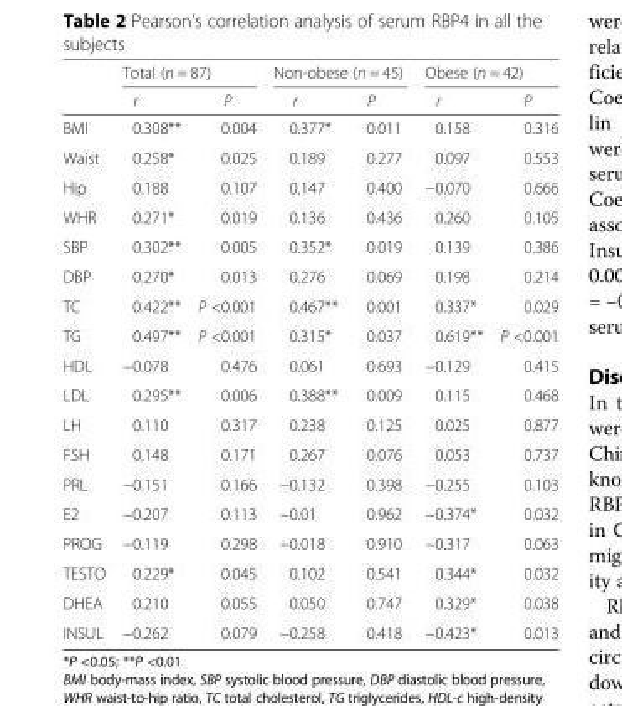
<table><thead><tr><td rowspan="2"></td><td colspan="2">Total (n = 87)</td><td colspan="2">Non-obese (n = 45)</td><td colspan="2">Obese (n = 42)</td></tr><tr><td>r</td><td>P</td><td>r</td><td>P</td><td>r</td><td>P</td></tr></thead><tbody><tr><td>BMI</td><td>0.308**</td><td>0.004</td><td>0.377*</td><td>0.011</td><td>0.158</td><td>0.316</td></tr><tr><td>Waist</td><td>0.258*</td><td>0.025</td><td>0.189</td><td>0.277</td><td>0.097</td><td>0.553</td></tr><tr><td>Hip</td><td>0.188</td><td>0.107</td><td>0.147</td><td>0.400</td><td>−0.070</td><td>0.666</td></tr><tr><td>WHR</td><td>0.271*</td><td>0.019</td><td>0.136</td><td>0.436</td><td>0.260</td><td>0.105</td></tr><tr><td>SBP</td><td>0.302**</td><td>0.005</td><td>0.352*</td><td>0.019</td><td>0.139</td><td>0.386</td></tr><tr><td>DBP</td><td>0.270*</td><td>0.013</td><td>0.276</td><td>0.069</td><td>0.198</td><td>0.214</td></tr><tr><td>TC</td><td>0.422**</td><td>P &lt;0.001</td><td>0.467**</td><td>0.001</td><td>0.337*</td><td>0.029</td></tr><tr><td>TG</td><td>0.497**</td><td>P &lt;0.001</td><td>0.315*</td><td>0.037</td><td>0.619**</td><td>P &lt;0.001</td></tr><tr><td>HDL</td><td>−0.078</td><td>0.476</td><td>0.061</td><td>0.693</td><td>−0.129</td><td>0.415</td></tr><tr><td>LDL</td><td>0.295**</td><td>0.006</td><td>0.388**</td><td>0.009</td><td>0.115</td><td>0.468</td></tr><tr><td>LH</td><td>0.110</td><td>0.317</td><td>0.238</td><td>0.125</td><td>0.025</td><td>0.877</td></tr><tr><td>FSH</td><td>0.148</td><td>0.171</td><td>0.267</td><td>0.076</td><td>0.053</td><td>0.737</td></tr><tr><td>PRL</td><td>−0.151</td><td>0.166</td><td>−0.132</td><td>0.398</td><td>−0.255</td><td>0.103</td></tr><tr><td>E2</td><td>−0.207</td><td>0.113</td><td>−0.01</td><td>0.962</td><td>−0.374*</td><td>0.032</td></tr><tr><td>PROG</td><td>−0.119</td><td>0.298</td><td>−0.018</td><td>0.910</td><td>−0.317</td><td>0.063</td></tr><tr><td>TESTO</td><td>0.229*</td><td>0.045</td><td>0.102</td><td>0.541</td><td>0.344*</td><td>0.032</td></tr><tr><td>DHEA</td><td>0.210</td><td>0.055</td><td>0.050</td><td>0.747</td><td>0.329*</td><td>0.038</td></tr><tr><td>INSUL</td><td>−0.262</td><td>0.079</td><td>−0.258</td><td>0.418</td><td>−0.423*</td><td>0.013</td></tr></tbody></table>